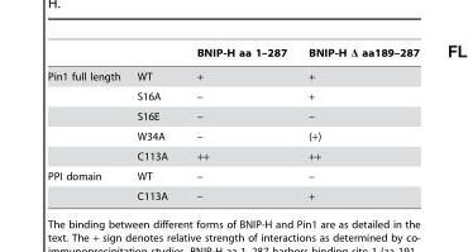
<table><thead><tr><td></td><td></td><td>BNIP-H aa 1–287</td><td>BNIP-H Δ aa189–287</td></tr></thead><tbody><tr><td rowspan="5">Pin1 full length</td><td>WT</td><td>+</td><td>+</td></tr><tr><td>S16A</td><td>–</td><td>+</td></tr><tr><td>S16E</td><td>–</td><td>–</td></tr><tr><td>W34A</td><td>–</td><td>(+)</td></tr><tr><td>C113A</td><td>++</td><td>++</td></tr><tr><td rowspan="2">PPI domain</td><td>WT</td><td>–</td><td>–</td></tr><tr><td>C113A</td><td>–</td><td>+</td></tr></tbody></table>